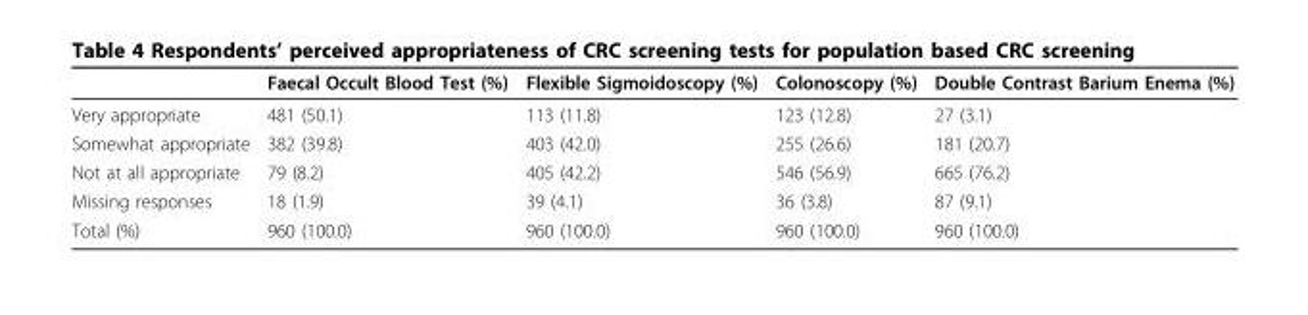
<table><thead><tr><td></td><td>Faecal Occult Blood Test (%)</td><td>Flexible Sigmoidoscopy (%)</td><td>Colonoscopy (%)</td><td>Double Contrast Barium Enema (%)</td></tr></thead><tbody><tr><td>Very appropriate</td><td>481 (50.1)</td><td>113 (11.8)</td><td>123 (12.8)</td><td>27 (3.1)</td></tr><tr><td>Somewhat appropriate</td><td>382 (39.8)</td><td>403 (42.0)</td><td>255 (26.6)</td><td>181 (20.7)</td></tr><tr><td>Not at all appropriate</td><td>79 (8.2)</td><td>405 (42.2)</td><td>546 (56.9)</td><td>665 (76.2)</td></tr><tr><td>Missing responses</td><td>18 (1.9)</td><td>39 (4.1)</td><td>36 (3.8)</td><td>87 (9.1)</td></tr><tr><td>Total (%)</td><td>960 (100.0)</td><td>960 (100.0)</td><td>960 (100.0)</td><td>960 (100.0)</td></tr></tbody></table>